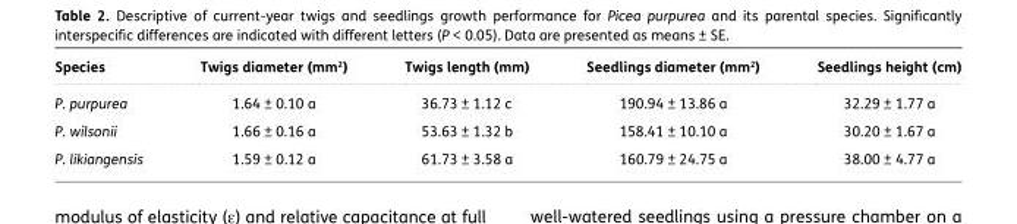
<table><thead><tr><td>Species</td><td>Twigs diameter (mm<sup>2</sup>)</td><td>Twigs length (mm)</td><td>Seedlings diameter (mm<sup>2</sup>)</td><td>Seedlings height (cm)</td></tr></thead><tbody><tr><td>P. purpurea</td><td>1.64 ± 0.10 a</td><td>36.73 ± 1.12 c</td><td>190.94 ± 13.86 a</td><td>32.29 ± 1.77 a</td></tr><tr><td>P. wilsonii</td><td>1.66 ± 0.16 a</td><td>53.63 ± 1.32 b</td><td>158.41 ± 10.10 a</td><td>30.20 ± 1.67 a</td></tr><tr><td>P. likiangensis</td><td>1.59 ± 0.12 a</td><td>61.73 ± 3.58 a</td><td>160.79 ± 24.75 a</td><td>38.00 ± 4.77 a</td></tr></tbody></table>